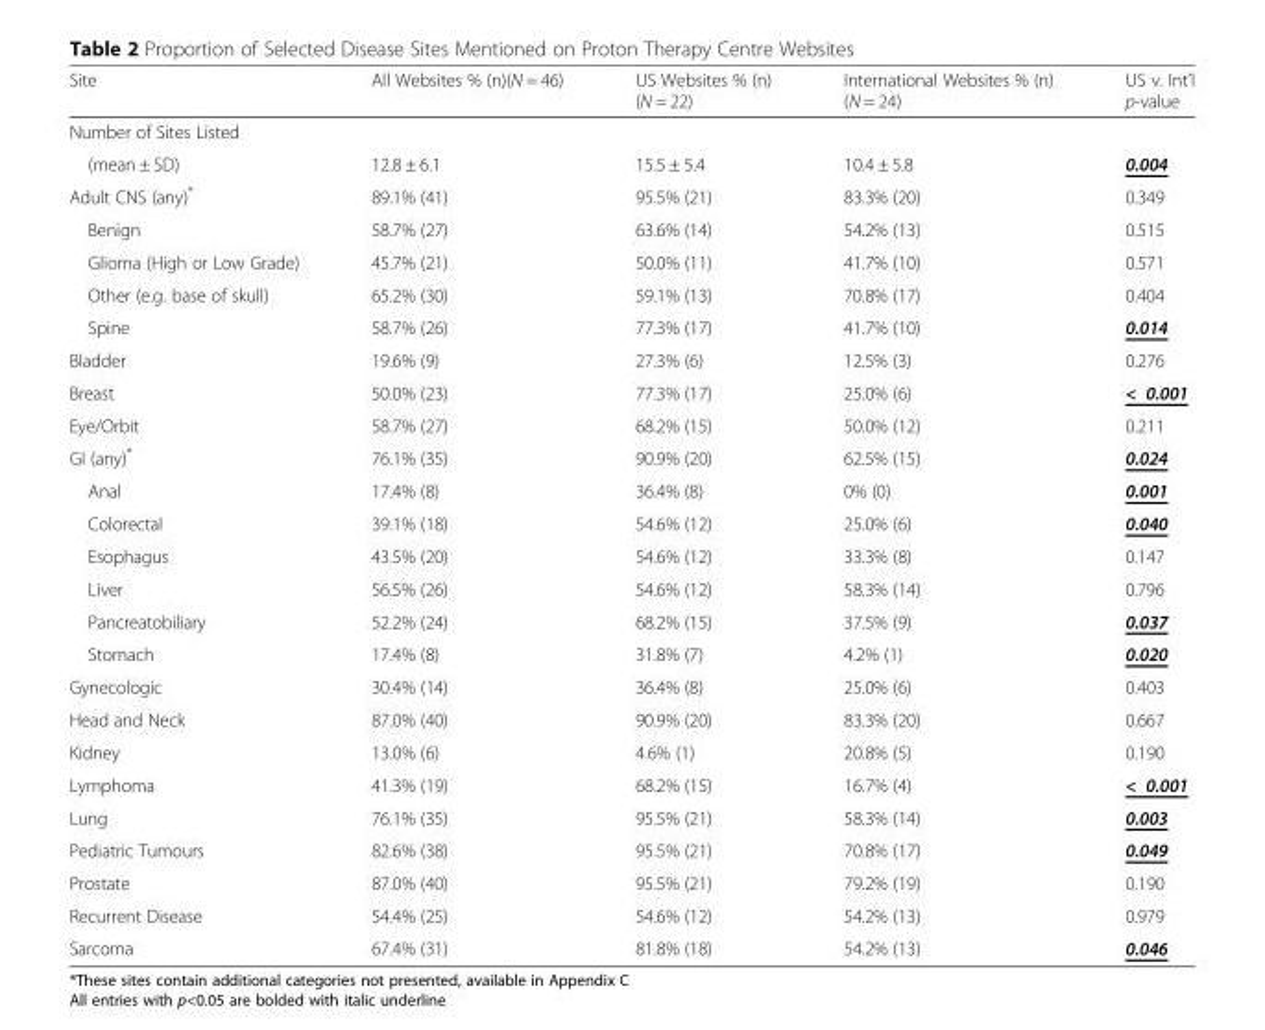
<table><thead><tr><td>Site</td><td>All Websites % (n)(N = 46)</td><td>US Websites % (n) (N = 22)</td><td>International Websites % (n) (N = 24)</td><td>US v. Int’l p-value</td></tr></thead><tbody><tr><td colspan="5">Number of Sites Listed</td></tr><tr><td>(mean ± SD)</td><td>12.8 ± 6.1</td><td>15.5 ± 5.4</td><td>10.4 ± 5.8</td><td>0.004</td></tr><tr><td>Adult CNS (any)*</td><td>89.1% (41)</td><td>95.5% (21)</td><td>83.3% (20)</td><td>0.349</td></tr><tr><td>Benign</td><td>58.7% (27)</td><td>63.6% (14)</td><td>54.2% (13)</td><td>0.515</td></tr><tr><td>Glioma (High or Low Grade)</td><td>45.7% (21)</td><td>50.0% (11)</td><td>41.7% (10)</td><td>0.571</td></tr><tr><td>Other (e.g. base of skull)</td><td>65.2% (30)</td><td>59.1% (13)</td><td>70.8% (17)</td><td>0.404</td></tr><tr><td>Spine</td><td>58.7% (26)</td><td>77.3% (17)</td><td>41.7% (10)</td><td>0.014</td></tr><tr><td>Bladder</td><td>19.6% (9)</td><td>27.3% (6)</td><td>12.5% (3)</td><td>0.276</td></tr><tr><td>Breast</td><td>50.0% (23)</td><td>77.3% (17)</td><td>25.0% (6)</td><td>&lt; 0.001</td></tr><tr><td>Eye/Orbit</td><td>58.7% (27)</td><td>68.2% (15)</td><td>50.0% (12)</td><td>0.211</td></tr><tr><td>GI (any)*</td><td>76.1% (35)</td><td>90.9% (20)</td><td>62.5% (15)</td><td>0.024</td></tr><tr><td>Anal</td><td>17.4% (8)</td><td>36.4% (8)</td><td>0% (0)</td><td>0.001</td></tr><tr><td>Colorectal</td><td>39.1% (18)</td><td>54.6% (12)</td><td>25.0% (6)</td><td>0.040</td></tr><tr><td>Esophagus</td><td>43.5% (20)</td><td>54.6% (12)</td><td>33.3% (8)</td><td>0.147</td></tr><tr><td>Liver</td><td>56.5% (26)</td><td>54.6% (12)</td><td>58.3% (14)</td><td>0.796</td></tr><tr><td>Pancreatobiliary</td><td>52.2% (24)</td><td>68.2% (15)</td><td>37.5% (9)</td><td>0.037</td></tr><tr><td>Stomach</td><td>17.4% (8)</td><td>31.8% (7)</td><td>4.2% (1)</td><td>0.020</td></tr><tr><td>Gynecologic</td><td>30.4% (14)</td><td>36.4% (8)</td><td>25.0% (6)</td><td>0.403</td></tr><tr><td>Head and Neck</td><td>87.0% (40)</td><td>90.9% (20)</td><td>83.3% (20)</td><td>0.667</td></tr><tr><td>Kidney</td><td>13.0% (6)</td><td>4.6% (1)</td><td>20.8% (5)</td><td>0.190</td></tr><tr><td>Lymphoma</td><td>41.3% (19)</td><td>68.2% (15)</td><td>16.7% (4)</td><td>&lt; 0.001</td></tr><tr><td>Lung</td><td>76.1% (35)</td><td>95.5% (21)</td><td>58.3% (14)</td><td>0.003</td></tr><tr><td>Pediatric Tumours</td><td>82.6% (38)</td><td>95.5% (21)</td><td>70.8% (17)</td><td>0.049</td></tr><tr><td>Prostate</td><td>87.0% (40)</td><td>95.5% (21)</td><td>79.2% (19)</td><td>0.190</td></tr><tr><td>Recurrent Disease</td><td>54.4% (25)</td><td>54.6% (12)</td><td>54.2% (13)</td><td>0.979</td></tr><tr><td>Sarcoma</td><td>67.4% (31)</td><td>81.8% (18)</td><td>54.2% (13)</td><td>0.046</td></tr></tbody></table>